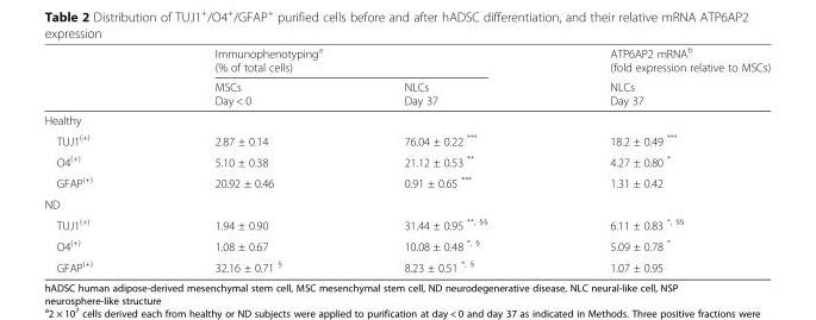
<table><thead><tr><td rowspan="2"></td><td colspan="2">Immunophenotyping<sup>a</sup> (% of total cells)</td><td rowspan="2">ATP6AP2 mRNA<sup>b</sup> (fold expression relative to MSCs) NLCs Day 37</td></tr><tr><td>MSCs Day &lt; 0</td><td>NLCs Day 37</td></tr></thead><tbody><tr><td colspan="4">Healthy</td></tr><tr><td>TUJ1<sup>(+)</sup></td><td>2.87 ± 0.14</td><td>76.04 ± 0.22 ***</td><td>18.2 ± 0.49 ***</td></tr><tr><td>O4<sup>(+)</sup></td><td>5.10 ± 0.38</td><td>21.12 ± 0.53 **</td><td>4.27 ± 0.80 *</td></tr><tr><td>GFAP<sup>(+)</sup></td><td>20.92 ± 0.46</td><td>0.91 ± 0.65 ***</td><td>1.31 ± 0.42</td></tr><tr><td colspan="4">ND</td></tr><tr><td>TUJ1<sup>(+)</sup></td><td>1.94 ± 0.90</td><td>31.44 ± 0.95 <sup>**, §§</sup></td><td>6.11 ± 0.83 <sup>*, §§</sup></td></tr><tr><td>O4<sup>(+)</sup></td><td>1.08 ± 0.67</td><td>10.08 ± 0.48 <sup>*, §</sup></td><td>5.09 ± 0.78 *</td></tr><tr><td>GFAP<sup>(+)</sup></td><td>32.16 ± 0.71 <sup>§</sup></td><td>8.23 ± 0.51 <sup>*, §</sup></td><td>1.07 ± 0.95</td></tr></tbody></table>